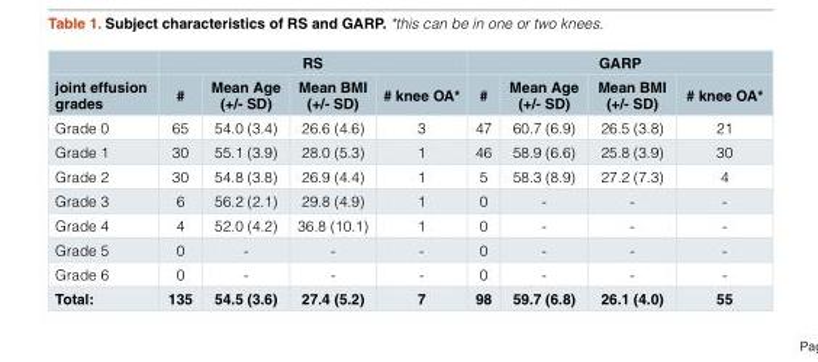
<table><thead><tr><td rowspan="2">joint effusion grades</td><td colspan="4">RS</td><td colspan="4">GARP</td></tr><tr><td>#</td><td>Mean Age (+/- SD)</td><td>Mean BMI (+/- SD)</td><td># knee OA*</td><td>#</td><td>Mean Age (+/- SD)</td><td>Mean BMI (+/- SD)</td><td># knee OA*</td></tr></thead><tbody><tr><td>Grade 0</td><td>65</td><td>54.0 (3.4)</td><td>26.6 (4.6)</td><td>3</td><td>47</td><td>60.7 (6.9)</td><td>26.5 (3.8)</td><td>21</td></tr><tr><td>Grade 1</td><td>30</td><td>55.1 (3.9)</td><td>28.0 (5.3)</td><td>1</td><td>46</td><td>58.9 (6.6)</td><td>25.8 (3.9)</td><td>30</td></tr><tr><td>Grade 2</td><td>30</td><td>54.8 (3.8)</td><td>26.9 (4.4)</td><td>1</td><td>5</td><td>58.3 (8.9)</td><td>27.2 (7.3)</td><td>4</td></tr><tr><td>Grade 3</td><td>6</td><td>56.2 (2.1)</td><td>29.8 (4.9)</td><td>1</td><td>0</td><td>-</td><td>-</td><td>-</td></tr><tr><td>Grade 4</td><td>4</td><td>52.0 (4.2)</td><td>36.8 (10.1)</td><td>1</td><td>0</td><td>-</td><td>-</td><td>-</td></tr><tr><td>Grade 5</td><td>0</td><td>-</td><td>-</td><td>-</td><td>0</td><td>-</td><td>-</td><td>-</td></tr><tr><td>Grade 6</td><td>0</td><td>-</td><td>-</td><td>-</td><td>0</td><td>-</td><td>-</td><td>-</td></tr><tr><td>Total:</td><td>135</td><td>54.5 (3.6)</td><td>27.4 (5.2)</td><td>7</td><td>98</td><td>59.7 (6.8)</td><td>26.1 (4.0)</td><td>55</td></tr></tbody></table>